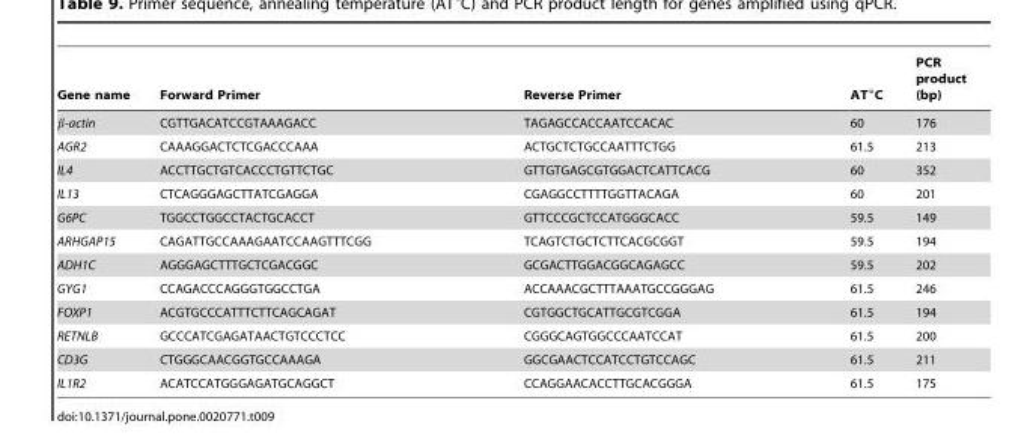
<table><thead><tr><td>Gene name</td><td>Forward Primer</td><td>Reverse Primer</td><td>AT°C</td><td>PCR product (bp)</td></tr></thead><tbody><tr><td>β-actin</td><td>CGTTGACATCCGTAAAGACC</td><td>TAGAGCCACCAATCCACAC</td><td>60</td><td>176</td></tr><tr><td>AGR2</td><td>CAAAGGACTCTCGACCCAAA</td><td>ACTGCTCTGCCAATTTCTGG</td><td>61.5</td><td>213</td></tr><tr><td>IL4</td><td>ACCTTGCTGTCACCCTGTTCTGC</td><td>GTTGTGAGCGTGGACTCATTCACG</td><td>60</td><td>352</td></tr><tr><td>IL13</td><td>CTCAGGGAGCTTATCGAGGA</td><td>CGAGGCCTTTTGGTTACAGA</td><td>60</td><td>201</td></tr><tr><td>G6PC</td><td>TGGCCTGGCCTACTGCACCT</td><td>GTTCCCGCTCCATGGGCACC</td><td>59.5</td><td>149</td></tr><tr><td>ARHGAP15</td><td>CAGATTGCCAAAGAATCCAAGTTTCGG</td><td>TCAGTCTGCTCTTCACGCGGT</td><td>59.5</td><td>194</td></tr><tr><td>ADH1C</td><td>AGGGAGCTTTGCTCGACGGC</td><td>GCGACTTGGACGGCAGAGCC</td><td>59.5</td><td>202</td></tr><tr><td>GYG1</td><td>CCAGACCCAGGGTGGCCTGA</td><td>ACCAAACGCTTTAAATGCCGGGAG</td><td>61.5</td><td>246</td></tr><tr><td>FOXP1</td><td>ACGTGCCCATTTCTTCAGCAGAT</td><td>CGTGGCTGCATTGCGTCGGA</td><td>61.5</td><td>194</td></tr><tr><td>RETNLB</td><td>GCCCATCGAGATAACTGTCCCTCC</td><td>CGGGCAGTGGCCCAATCCAT</td><td>61.5</td><td>200</td></tr><tr><td>CD3G</td><td>CTGGGCAACGGTGCCAAAGA</td><td>GGCGAACTCCATCCTGTCCAGC</td><td>61.5</td><td>211</td></tr><tr><td>IL1R2</td><td>ACATCCATGGGAGATGCAGGCT</td><td>CCAGGAACACCTTGCACGGGA</td><td>61.5</td><td>175</td></tr></tbody></table>